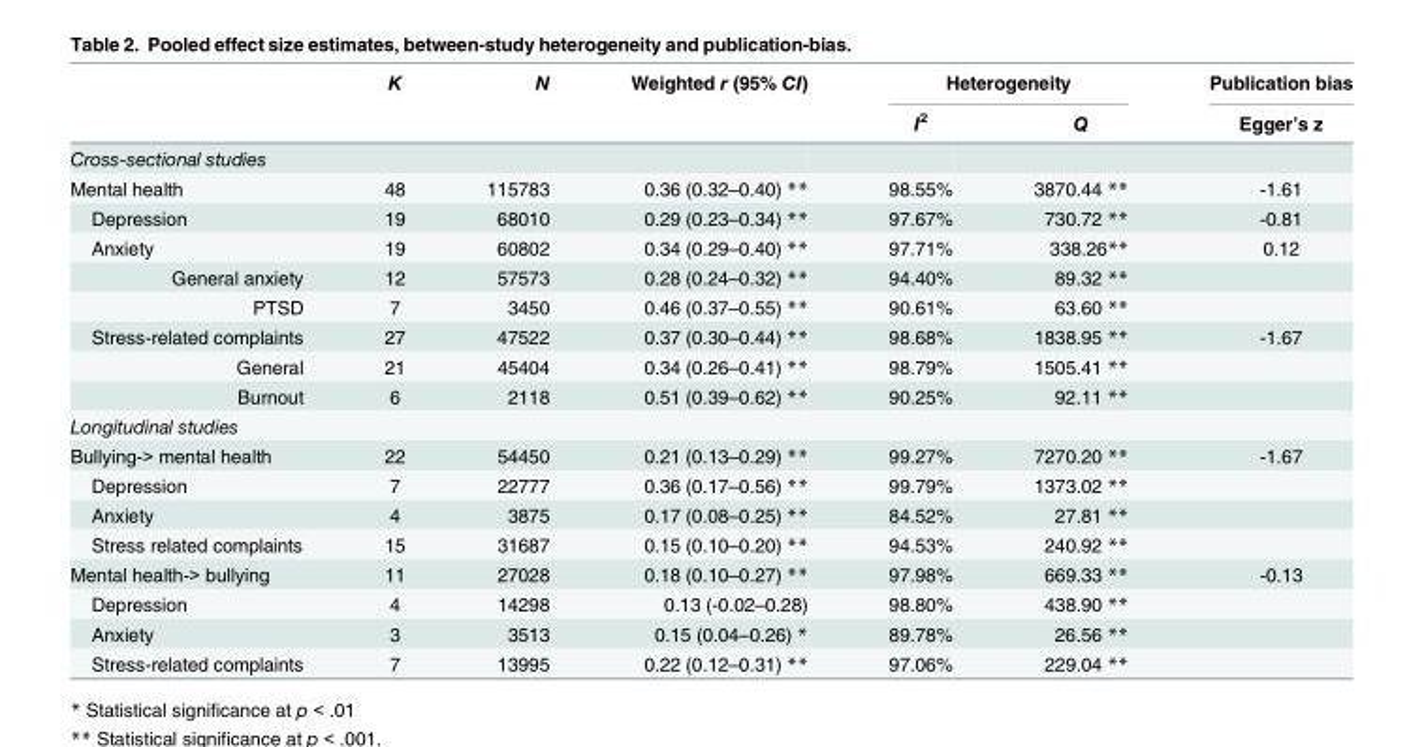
<table><thead><tr><td rowspan="2"></td><td rowspan="2">K</td><td rowspan="2">N</td><td rowspan="2">Weighted r (95% CI)</td><td colspan="2">Heterogeneity</td><td rowspan="2">Publication bias Egger’s z</td></tr><tr><td>I<sup>2</sup></td><td>Q</td></tr></thead><tbody><tr><td colspan="7">Cross-sectional studies</td></tr><tr><td>Mental health</td><td>48</td><td>115783</td><td>0.36 (0.32–0.40) **</td><td>98.55%</td><td>3870.44 **</td><td>-1.61</td></tr><tr><td>Depression</td><td>19</td><td>68010</td><td>0.29 (0.23–0.34) **</td><td>97.67%</td><td>730.72 **</td><td>-0.81</td></tr><tr><td>Anxiety</td><td>19</td><td>60802</td><td>0.34 (0.29–0.40) **</td><td>97.71%</td><td>338.26**</td><td>0.12</td></tr><tr><td>General anxiety</td><td>12</td><td>57573</td><td>0.28 (0.24–0.32) **</td><td>94.40%</td><td>89.32 **</td><td></td></tr><tr><td>PTSD</td><td>7</td><td>3450</td><td>0.46 (0.37–0.55) **</td><td>90.61%</td><td>63.60 **</td><td></td></tr><tr><td>Stress-related complaints</td><td>27</td><td>47522</td><td>0.37 (0.30–0.44) **</td><td>98.68%</td><td>1838.95 **</td><td>-1.67</td></tr><tr><td>General</td><td>21</td><td>45404</td><td>0.34 (0.26–0.41) **</td><td>98.79%</td><td>1505.41 **</td><td></td></tr><tr><td>Burnout</td><td>6</td><td>2118</td><td>0.51 (0.39–0.62) **</td><td>90.25%</td><td>92.11 **</td><td></td></tr><tr><td colspan="7">Longitudinal studies</td></tr><tr><td>Bullying-&gt; mental health</td><td>22</td><td>54450</td><td>0.21 (0.13–0.29) **</td><td>99.27%</td><td>7270.20 **</td><td>-1.67</td></tr><tr><td>Depression</td><td>7</td><td>22777</td><td>0.36 (0.17–0.56) **</td><td>99.79%</td><td>1373.02 **</td><td></td></tr><tr><td>Anxiety</td><td>4</td><td>3875</td><td>0.17 (0.08–0.25) **</td><td>84.52%</td><td>27.81 **</td><td></td></tr><tr><td>Stress related complaints</td><td>15</td><td>31687</td><td>0.15 (0.10–0.20) **</td><td>94.53%</td><td>240.92 **</td><td></td></tr><tr><td>Mental health-&gt; bullying</td><td>11</td><td>27028</td><td>0.18 (0.10–0.27) **</td><td>97.98%</td><td>669.33 **</td><td>-0.13</td></tr><tr><td>Depression</td><td>4</td><td>14298</td><td>0.13 (-0.02–0.28)</td><td>98.80%</td><td>438.90 **</td><td></td></tr><tr><td>Anxiety</td><td>3</td><td>3513</td><td>0.15 (0.04–0.26) *</td><td>89.78%</td><td>26.56 **</td><td></td></tr><tr><td>Stress-related complaints</td><td>7</td><td>13995</td><td>0.22 (0.12–0.31) **</td><td>97.06%</td><td>229.04 **</td><td></td></tr></tbody></table>